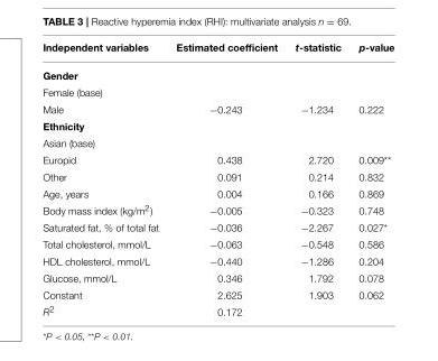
<table><thead><tr><td>Independent variables</td><td>Estimated coefficient</td><td>t-statistic</td><td>p-value</td></tr></thead><tbody><tr><td colspan="4">Gender</td></tr><tr><td colspan="4">Female (base)</td></tr><tr><td>Male</td><td>−0.243</td><td>−1.234</td><td>0.222</td></tr><tr><td colspan="4">Ethnicity</td></tr><tr><td colspan="4">Asian (base)</td></tr><tr><td>Europid</td><td>0.438</td><td>2.720</td><td>0.009**</td></tr><tr><td>Other</td><td>0.091</td><td>0.214</td><td>0.832</td></tr><tr><td>Age, years</td><td>0.004</td><td>0.166</td><td>0.869</td></tr><tr><td>Body mass index (kg/m<sup>2</sup>)</td><td>−0.005</td><td>−0.323</td><td>0.748</td></tr><tr><td>Saturated fat, % of total fat</td><td>−0.036</td><td>−2.267</td><td>0.027*</td></tr><tr><td>Total cholesterol, mmol/L</td><td>−0.063</td><td>−0.548</td><td>0.586</td></tr><tr><td>HDL cholesterol, mmol/L</td><td>−0.440</td><td>−1.286</td><td>0.204</td></tr><tr><td>Glucose, mmol/L</td><td>0.346</td><td>1.792</td><td>0.078</td></tr><tr><td>Constant</td><td>2.625</td><td>1.903</td><td>0.062</td></tr><tr><td>R<sup>2</sup></td><td>0.172</td><td></td><td></td></tr></tbody></table>